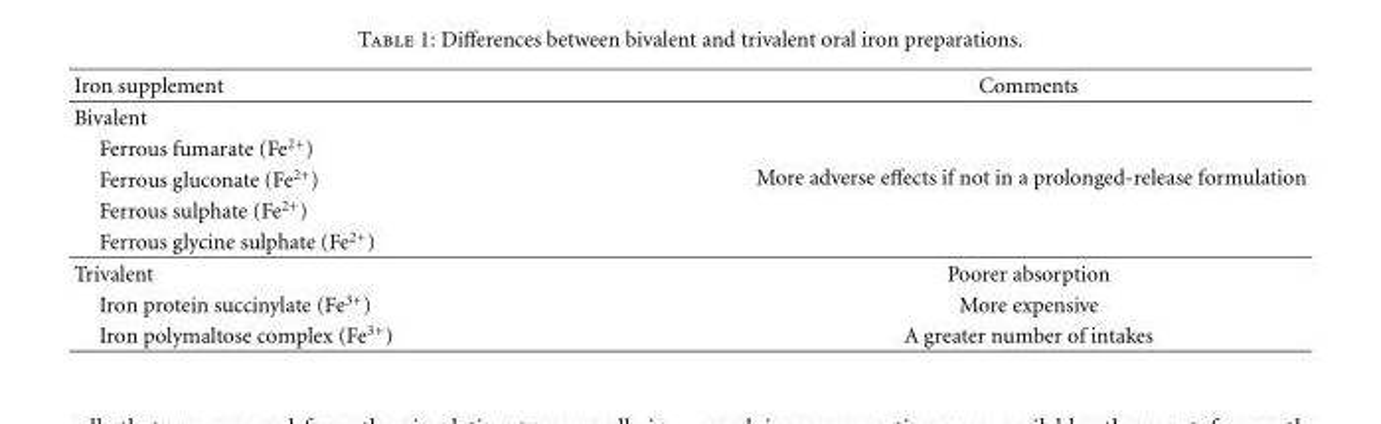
<table><thead><tr><td>Iron supplement</td><td>Comments</td></tr></thead><tbody><tr><td colspan="2">Bivalent</td></tr><tr><td>Ferrous fumarate (Fe<sup>2+</sup>)</td><td rowspan="3">More adverse effects if not in a prolonged-release formulation</td></tr><tr><td>Ferrous gluconate (Fe<sup>2+</sup>)</td></tr><tr><td>Ferrous sulphate (Fe<sup>2+</sup>)</td></tr><tr><td colspan="2">Ferrous glycine sulphate (Fe<sup>2+</sup>)</td></tr><tr><td>Trivalent</td><td>Poorer absorption</td></tr><tr><td>Iron protein succinylate (Fe<sup>3+</sup>)</td><td>More expensive</td></tr><tr><td>Iron polymaltose complex (Fe<sup>3+</sup>)</td><td>A greater number of intakes</td></tr></tbody></table>